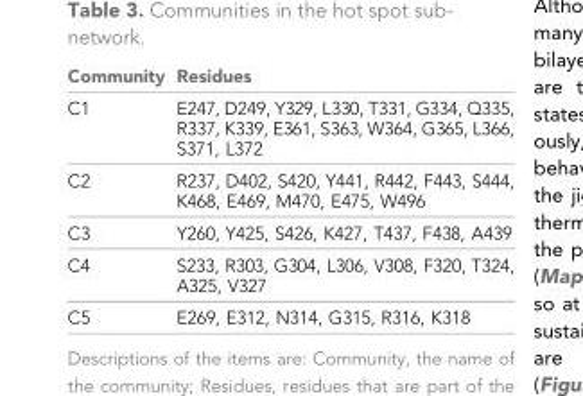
<table><thead><tr><td>Community</td><td>Residues</td></tr></thead><tbody><tr><td>C1</td><td>E247, D249, Y329, L330, T331, G334, Q335, R337, K339, E361, S363, W364, G365, L366, S371, L372</td></tr><tr><td>C2</td><td>R237, D402, S420, Y441, R442, F443, S444, K468, E469, M470, E475, W496</td></tr><tr><td>C3</td><td>Y260, Y425, S426, K427, T437, F438, A439</td></tr><tr><td>C4</td><td>S233, R303, G304, L306, V308, F320, T324, A325, V327</td></tr><tr><td>C5</td><td>E269, E312, N314, G315, R316, K318</td></tr></tbody></table>